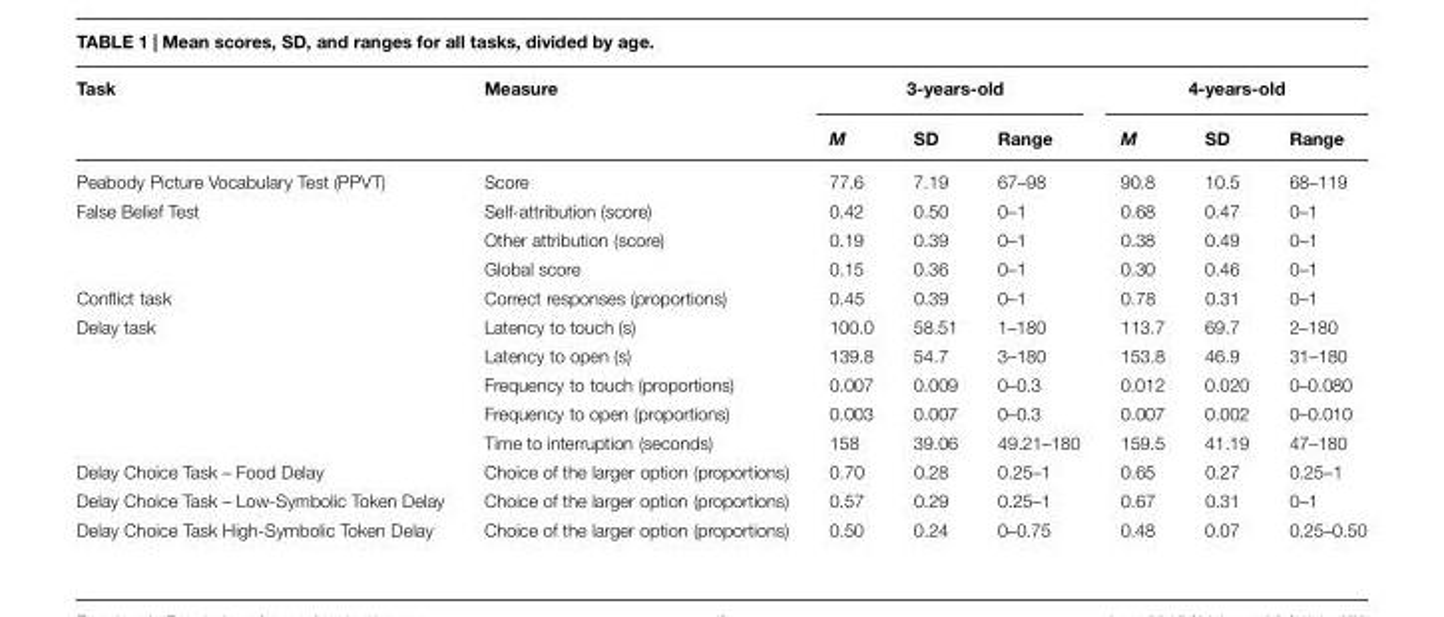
<table><thead><tr><td rowspan="2">Task</td><td rowspan="2">Measure</td><td colspan="3">3-years-old</td><td colspan="3">4-years-old</td></tr><tr><td>M</td><td>SD</td><td>Range</td><td>M</td><td>SD</td><td>Range</td></tr></thead><tbody><tr><td>Peabody Picture Vocabulary Test (PPVT)</td><td>Score</td><td>77.6</td><td>7.19</td><td>67–98</td><td>90.8</td><td>10.5</td><td>68–119</td></tr><tr><td rowspan="3">False Belief Test</td><td>Self-attribution (score)</td><td>0.42</td><td>0.50</td><td>0–1</td><td>0.68</td><td>0.47</td><td>0–1</td></tr><tr><td>Other attribution (score)</td><td>0.19</td><td>0.39</td><td>0–1</td><td>0.38</td><td>0.49</td><td>0–1</td></tr><tr><td>Global score</td><td>0.15</td><td>0.36</td><td>0–1</td><td>0.30</td><td>0.46</td><td>0–1</td></tr><tr><td>Conflict task</td><td>Correct responses (proportions)</td><td>0.45</td><td>0.39</td><td>0–1</td><td>0.78</td><td>0.31</td><td>0–1</td></tr><tr><td rowspan="5">Delay task</td><td>Latency to touch (s)</td><td>100.0</td><td>58.51</td><td>1–180</td><td>113.7</td><td>69.7</td><td>2–180</td></tr><tr><td>Latency to open (s)</td><td>139.8</td><td>54.7</td><td>3–180</td><td>153.8</td><td>46.9</td><td>31–180</td></tr><tr><td>Frequency to touch (proportions)</td><td>0.007</td><td>0.009</td><td>0–0.3</td><td>0.012</td><td>0.020</td><td>0–0.080</td></tr><tr><td>Frequency to open (proportions)</td><td>0.003</td><td>0.007</td><td>0–0.3</td><td>0.007</td><td>0.002</td><td>0–0.010</td></tr><tr><td>Time to interruption (seconds)</td><td>158</td><td>39.06</td><td>49.21–180</td><td>159.5</td><td>41.19</td><td>47–180</td></tr><tr><td>Delay Choice Task – Food Delay</td><td>Choice of the larger option (proportions)</td><td>0.70</td><td>0.28</td><td>0.25–1</td><td>0.65</td><td>0.27</td><td>0.25–1</td></tr><tr><td>Delay Choice Task – Low-Symbolic Token Delay</td><td>Choice of the larger option (proportions)</td><td>0.57</td><td>0.29</td><td>0.25–1</td><td>0.67</td><td>0.31</td><td>0–1</td></tr><tr><td>Delay Choice Task High-Symbolic Token Delay</td><td>Choice of the larger option (proportions)</td><td>0.50</td><td>0.24</td><td>0–0.75</td><td>0.48</td><td>0.07</td><td>0.25–0.50</td></tr></tbody></table>